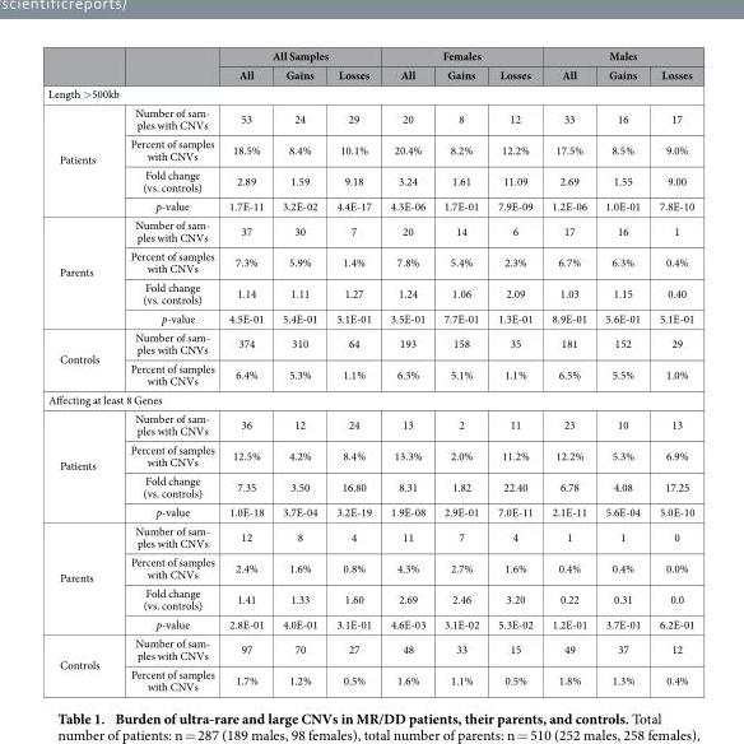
<table><thead><tr><td rowspan="2"></td><td rowspan="2"></td><td colspan="3">All Samples</td><td colspan="3">Females</td><td colspan="3">Males</td></tr><tr><td>All</td><td>Gains</td><td>Losses</td><td>All</td><td>Gains</td><td>Losses</td><td>All</td><td>Gains</td><td>Losses</td></tr></thead><tbody><tr><td colspan="11">Length &gt; 500kb</td></tr><tr><td rowspan="4">Patients</td><td>Number of sam- ples with CNVs</td><td>53</td><td>24</td><td>29</td><td>20</td><td>8</td><td>12</td><td>33</td><td>16</td><td>17</td></tr><tr><td>Percent of samples with CNVs</td><td>18.5%</td><td>8.4%</td><td>10.1%</td><td>20.4%</td><td>8.2%</td><td>12.2%</td><td>17.5%</td><td>8.5%</td><td>9.0%</td></tr><tr><td>Fold change (vs. controls)</td><td>2.89</td><td>1.59</td><td>9.18</td><td>3.24</td><td>1.61</td><td>11.09</td><td>2.69</td><td>1.55</td><td>9.00</td></tr><tr><td>p-value</td><td>1.7E-11</td><td>3.2E-02</td><td>4.4E-17</td><td>4.3E-06</td><td>1.7E-01</td><td>7.9E-09</td><td>1.2E-06</td><td>1.0E-01</td><td>7.8E-10</td></tr><tr><td rowspan="4">Parents</td><td>Number of sam- ples with CNVs</td><td>37</td><td>30</td><td>7</td><td>20</td><td>14</td><td>6</td><td>17</td><td>16</td><td>1</td></tr><tr><td>Percent of samples with CNVs</td><td>7.3%</td><td>5.9%</td><td>1.4%</td><td>7.8%</td><td>5.4%</td><td>2.3%</td><td>6.7%</td><td>6.3%</td><td>0.4%</td></tr><tr><td>Fold change (vs. controls)</td><td>1.14</td><td>1.11</td><td>1.27</td><td>1.24</td><td>1.06</td><td>2.09</td><td>1.03</td><td>1.15</td><td>0.40</td></tr><tr><td>p-value</td><td>4.5E-01</td><td>5.4E-01</td><td>5.1E-01</td><td>3.5E-01</td><td>7.7E-01</td><td>1.3E-01</td><td>8.9E-01</td><td>5.6E-01</td><td>5.1E-01</td></tr><tr><td rowspan="2">Controls</td><td>Number of sam- ples with CNVs</td><td>374</td><td>310</td><td>64</td><td>193</td><td>158</td><td>35</td><td>181</td><td>152</td><td>29</td></tr><tr><td>Percent of samples with CNVs</td><td>6.4%</td><td>5.3%</td><td>1.1%</td><td>6.3%</td><td>5.1%</td><td>1.1%</td><td>6.5%</td><td>5.5%</td><td>1.0%</td></tr><tr><td colspan="11">Affecting at least 8 Genes</td></tr><tr><td rowspan="4">Patients</td><td>Number of sam- ples with CNVs</td><td>36</td><td>12</td><td>24</td><td>13</td><td>2</td><td>11</td><td>23</td><td>10</td><td>13</td></tr><tr><td>Percent of samples with CNVs</td><td>12.5%</td><td>4.2%</td><td>8.4%</td><td>13.3%</td><td>2.0%</td><td>11.2%</td><td>12.2%</td><td>5.3%</td><td>6.9%</td></tr><tr><td>Fold change (vs. controls)</td><td>7.35</td><td>3.50</td><td>16.80</td><td>8.31</td><td>1.82</td><td>22.40</td><td>6.78</td><td>4.08</td><td>17.25</td></tr><tr><td>p-value</td><td>1.0E-18</td><td>3.7E-04</td><td>3.2E-19</td><td>1.9E-08</td><td>2.9E-01</td><td>7.0E-11</td><td>2.1E-11</td><td>5.6E-04</td><td>5.0E-10</td></tr><tr><td rowspan="4">Parents</td><td>Number of sam- ples with CNVs</td><td>12</td><td>8</td><td>4</td><td>11</td><td>7</td><td>4</td><td>1</td><td>1</td><td>0</td></tr><tr><td>Percent of samples with CNVs</td><td>2.4%</td><td>1.6%</td><td>0.8%</td><td>4.3%</td><td>2.7%</td><td>1.6%</td><td>0.4%</td><td>0.4%</td><td>0.0%</td></tr><tr><td>Fold change (vs. controls)</td><td>1.41</td><td>1.33</td><td>1.60</td><td>2.69</td><td>2.46</td><td>3.20</td><td>0.22</td><td>0.31</td><td>0.0</td></tr><tr><td>p-value</td><td>2.8E-01</td><td>4.0E-01</td><td>3.1E-01</td><td>4.6E-03</td><td>3.1E-02</td><td>5.3E-02</td><td>1.2E-01</td><td>3.7E-01</td><td>6.2E-01</td></tr><tr><td rowspan="2">Controls</td><td>Number of sam- ples with CNVs</td><td>97</td><td>70</td><td>27</td><td>48</td><td>33</td><td>15</td><td>49</td><td>37</td><td>12</td></tr><tr><td>Percent of samples with CNVs</td><td>1.7%</td><td>1.2%</td><td>0.5%</td><td>1.6%</td><td>1.1%</td><td>0.5%</td><td>1.8%</td><td>1.3%</td><td>0.4%</td></tr></tbody></table>